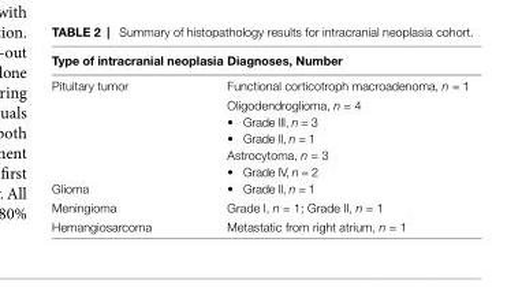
<table><thead><tr><td>type of intracranial neoplasia</td><td>Diagnoses, number</td></tr></thead><tbody><tr><td>Pituitary tumor</td><td>Functional corticotroph macroadenoma, n = 1</td></tr><tr><td>Glioma</td><td>Oligodendroglioma, n = 4 • Grade III, n = 3 • Grade II, n = 1 Astrocytoma, n = 3 • Grade IV, n = 2 • Grade II, n = 1</td></tr><tr><td>Meningioma</td><td>Grade I, n = 1; Grade II, n = 1</td></tr><tr><td>Hemangiosarcoma</td><td>Metastatic from right atrium, n = 1</td></tr></tbody></table>